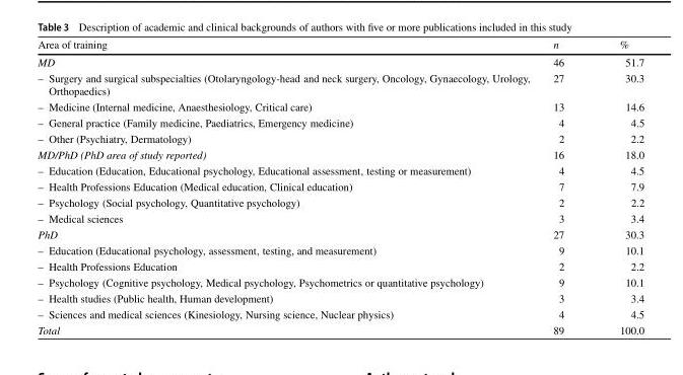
<table><thead><tr><td>Area of training</td><td>n</td><td>%</td></tr></thead><tbody><tr><td>MD</td><td>46</td><td>51.7</td></tr><tr><td>– Surgery and surgical subspecialties (Otolaryngology-head and neck surgery, Oncology, Gynaecology, Urology, Orthopaedics)</td><td>27</td><td>30.3</td></tr><tr><td>– Medicine (Internal medicine, Anaesthesiology, Critical care)</td><td>13</td><td>14.6</td></tr><tr><td>– General practice (Family medicine, Paediatrics, Emergency medicine)</td><td>4</td><td>4.5</td></tr><tr><td>– Other (Psychiatry, Dermatology)</td><td>2</td><td>2.2</td></tr><tr><td>MD/PhD (PhD area of study reported)</td><td>16</td><td>18.0</td></tr><tr><td>– Education (Education, Educational psychology, Educational assessment, testing or measurement)</td><td>4</td><td>4.5</td></tr><tr><td>– Health Professions Education (Medical education, Clinical education)</td><td>7</td><td>7.9</td></tr><tr><td>– Psychology (Social psychology, Quantitative psychology)</td><td>2</td><td>2.2</td></tr><tr><td>– Medical sciences</td><td>3</td><td>3.4</td></tr><tr><td>PhD</td><td>27</td><td>30.3</td></tr><tr><td>– Education (Educational psychology, assessment, testing, and measurement)</td><td>9</td><td>10.1</td></tr><tr><td>– Health Professions Education</td><td>2</td><td>2.2</td></tr><tr><td>– Psychology (Cognitive psychology, Medical psychology, Psychometrics or quantitative psychology)</td><td>9</td><td>10.1</td></tr><tr><td>– Health studies (Public health, Human development)</td><td>3</td><td>3.4</td></tr><tr><td>– Sciences and medical sciences (Kinesiology, Nursing science, Nuclear physics)</td><td>4</td><td>4.5</td></tr><tr><td>Total</td><td>89</td><td>100.0</td></tr></tbody></table>